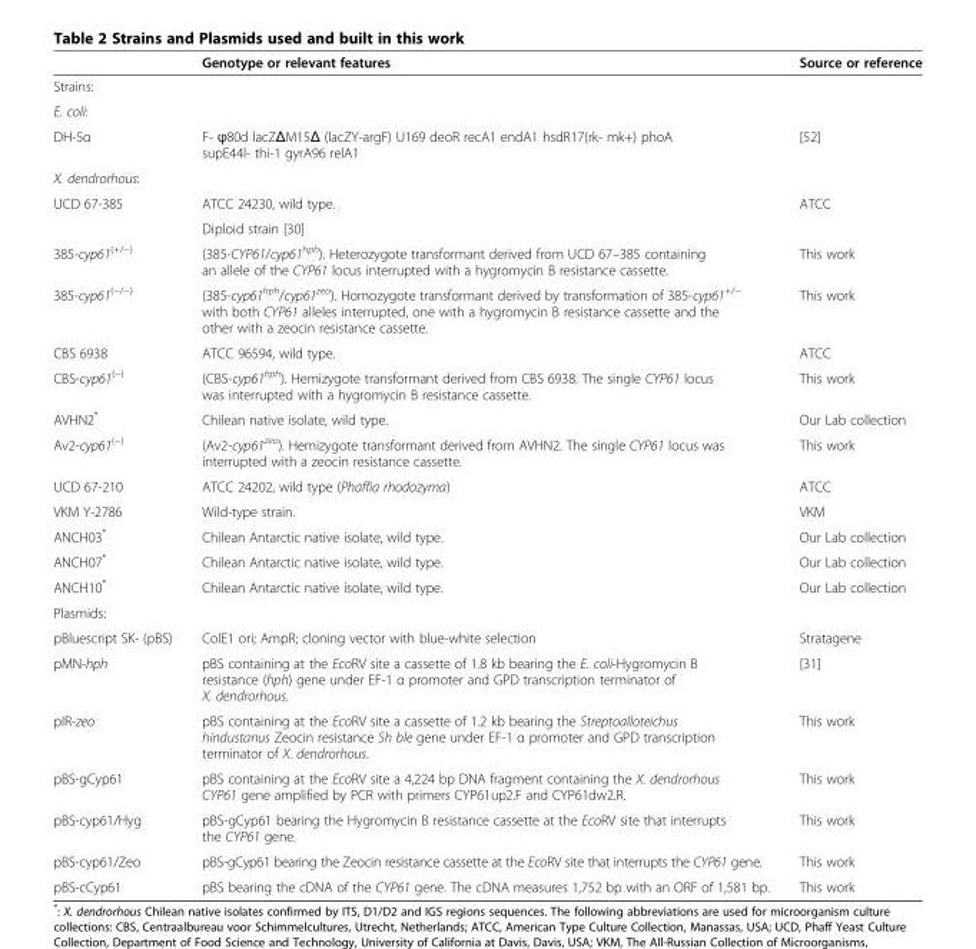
<table><thead><tr><td></td><td>Genotype or relevant features</td><td>Source or reference</td></tr></thead><tbody><tr><td colspan="3">Strains:</td></tr><tr><td colspan="3">E. coli:</td></tr><tr><td>DH-5α</td><td>F- ϕ80d lacZΔM15Δ (lacZY-argF) U169 deoR recA1 endA1 hsdR17(rk- mk+) phoA supE44l- thi-1 gyrA96 relA1</td><td>[52]</td></tr><tr><td colspan="3">X. dendrorhous:</td></tr><tr><td rowspan="2">UCD 67-385</td><td>ATCC 24230, wild type.</td><td rowspan="2">ATCC</td></tr><tr><td>Diploid strain [30]</td></tr><tr><td>385-cyp61<sup>(+/−)</sup></td><td>(385-CYP61/cyp61<sup>hph</sup>). Heterozygote transformant derived from UCD 67–385 containing an allele of the CYP61 locus interrupted with a hygromycin B resistance cassette.</td><td>This work</td></tr><tr><td>385-cyp61<sup>(−/−)</sup></td><td>(385-cyp61<sup>hph</sup>/cyp61<sup>zeo</sup>). Homozygote transformant derived by transformation of 385-cyp61<sup>+/−</sup> with both CYP61 alleles interrupted, one with a hygromycin B resistance cassette and the other with a zeocin resistance cassette.</td><td>This work</td></tr><tr><td>CBS 6938</td><td>ATCC 96594, wild type.</td><td>ATCC</td></tr><tr><td>CBS-cyp61<sup>(−)</sup></td><td>(CBS-cyp61<sup>hph</sup>). Hemizygote transformant derived from CBS 6938. The single CYP61 locus was interrupted with a hygromycin B resistance cassette.</td><td>This work</td></tr><tr><td>AVHN2*</td><td>Chilean native isolate, wild type.</td><td>Our Lab collection</td></tr><tr><td>Av2-cyp61<sup>(−)</sup></td><td>(Av2-cyp61<sup>zeo</sup>). Hemizygote transformant derived from AVHN2. The single CYP61 locus was interrupted with a zeocin resistance cassette.</td><td>This work</td></tr><tr><td>UCD 67-210</td><td>ATCC 24202, wild type (Phaffia rhodozyma)</td><td>ATCC</td></tr><tr><td>VKM Y-2786</td><td>Wild-type strain.</td><td>VKM</td></tr><tr><td>ANCH03*</td><td>Chilean Antarctic native isolate, wild type.</td><td>Our Lab collection</td></tr><tr><td>ANCH07*</td><td>Chilean Antarctic native isolate, wild type.</td><td>Our Lab collection</td></tr><tr><td>ANCH10*</td><td>Chilean Antarctic native isolate, wild type.</td><td>Our Lab collection</td></tr><tr><td colspan="3">Plasmids:</td></tr><tr><td>pBluescript SK- (pBS)</td><td>ColE1 ori; AmpR; cloning vector with blue-white selection</td><td>Stratagene</td></tr><tr><td>pMN-hph</td><td>pBS containing at the EcoRV site a cassette of 1.8 kb bearing the E. coli-Hygromycin B resistance (hph) gene under EF-1 α promoter and GPD transcription terminator of X. dendrorhous.</td><td>[31]</td></tr><tr><td>pIR-zeo</td><td>pBS containing at the EcoRV site a cassette of 1.2 kb bearing the Streptoalloteichus hindustanus Zeocin resistance Sh ble gene under EF-1 α promoter and GPD transcription terminator of X. dendrorhous.</td><td>This work</td></tr><tr><td>pBS-gCyp61</td><td>pBS containing at the EcoRV site a 4,224 bp DNA fragment containing the X. dendrorhous CYP61 gene amplified by PCR with primers CYP61up2.F and CYP61dw2.R.</td><td>This work</td></tr><tr><td>pBS-cyp61/Hyg</td><td>pBS-gCyp61 bearing the Hygromycin B resistance cassette at the EcoRV site that interrupts the CYP61 gene.</td><td>This work</td></tr><tr><td>pBS-cyp61/Zeo</td><td>pBS-gCyp61 bearing the Zeocin resistance cassette at the EcoRV site that interrupts the CYP61 gene.</td><td>This work</td></tr><tr><td>pBS-cCyp61</td><td>pBS bearing the cDNA of the CYP61 gene. The cDNA measures 1,752 bp with an ORF of 1,581 bp.</td><td>This work</td></tr></tbody></table>